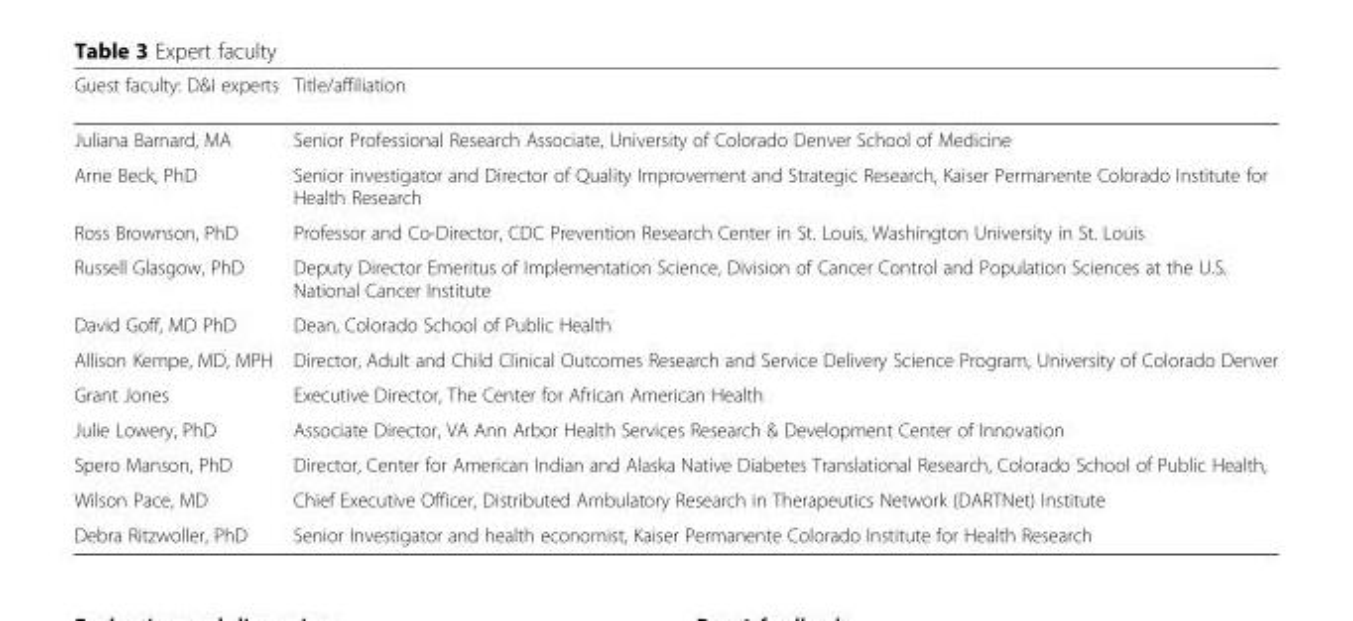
<table><thead><tr><td>Guest faculty: D&amp;I experts</td><td>Title/affiliation</td></tr></thead><tbody><tr><td>Juliana Barnard, MA</td><td>Senior Professional Research Associate, University of Colorado Denver School of Medicine</td></tr><tr><td>Arne Beck, PhD</td><td>Senior investigator and Director of Quality Improvement and Strategic Research, Kaiser Permanente Colorado Institute for Health Research</td></tr><tr><td>Ross Brownson, PhD</td><td>Professor and Co-Director, CDC Prevention Research Center in St. Louis, Washington University in St. Louis</td></tr><tr><td>Russell Glasgow, PhD</td><td>Deputy Director Emeritus of Implementation Science, Division of Cancer Control and Population Sciences at the U.S. National Cancer Institute</td></tr><tr><td>David Goff, MD PhD</td><td>Dean, Colorado School of Public Health</td></tr><tr><td>Allison Kempe, MD, MPH</td><td>Director, Adult and Child Clinical Outcomes Research and Service Delivery Science Program, University of Colorado Denver</td></tr><tr><td>Grant Jones</td><td>Executive Director, The Center for African American Health</td></tr><tr><td>Julie Lowery, PhD</td><td>Associate Director, VA Ann Arbor Health Services Research &amp; Development Center of Innovation</td></tr><tr><td>Spero Manson, PhD</td><td>Director, Center for American Indian and Alaska Native Diabetes Translational Research, Colorado School of Public Health,</td></tr><tr><td>Wilson Pace, MD</td><td>Chief Executive Officer, Distributed Ambulatory Research in Therapeutics Network (DARTNet) Institute</td></tr><tr><td>Debra Ritzwoller, PhD</td><td>Senior Investigator and health economist, Kaiser Permanente Colorado Institute for Health Research</td></tr></tbody></table>